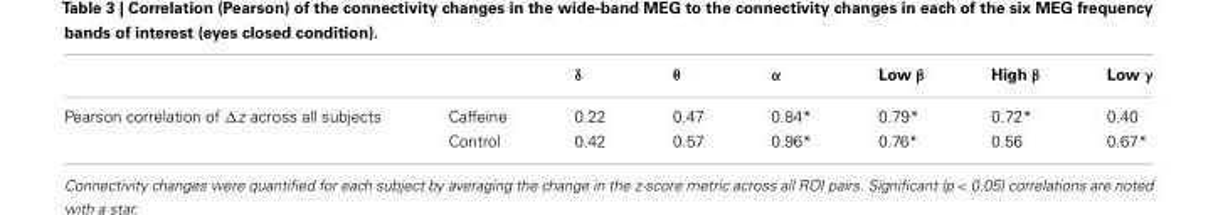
<table><thead><tr><td></td><td></td><td>δ</td><td>θ</td><td>α</td><td>Low β</td><td>High β</td><td>Low γ</td></tr></thead><tbody><tr><td rowspan="2">Pearson correlation of ∆z across all subjects</td><td>Caffeine</td><td>0.22</td><td>0.47</td><td>0.84*</td><td>0.79*</td><td>0.72*</td><td>0.40</td></tr><tr><td>Control</td><td>0.42</td><td>0.57</td><td>0.96*</td><td>0.76*</td><td>0.56</td><td>0.67*</td></tr></tbody></table>